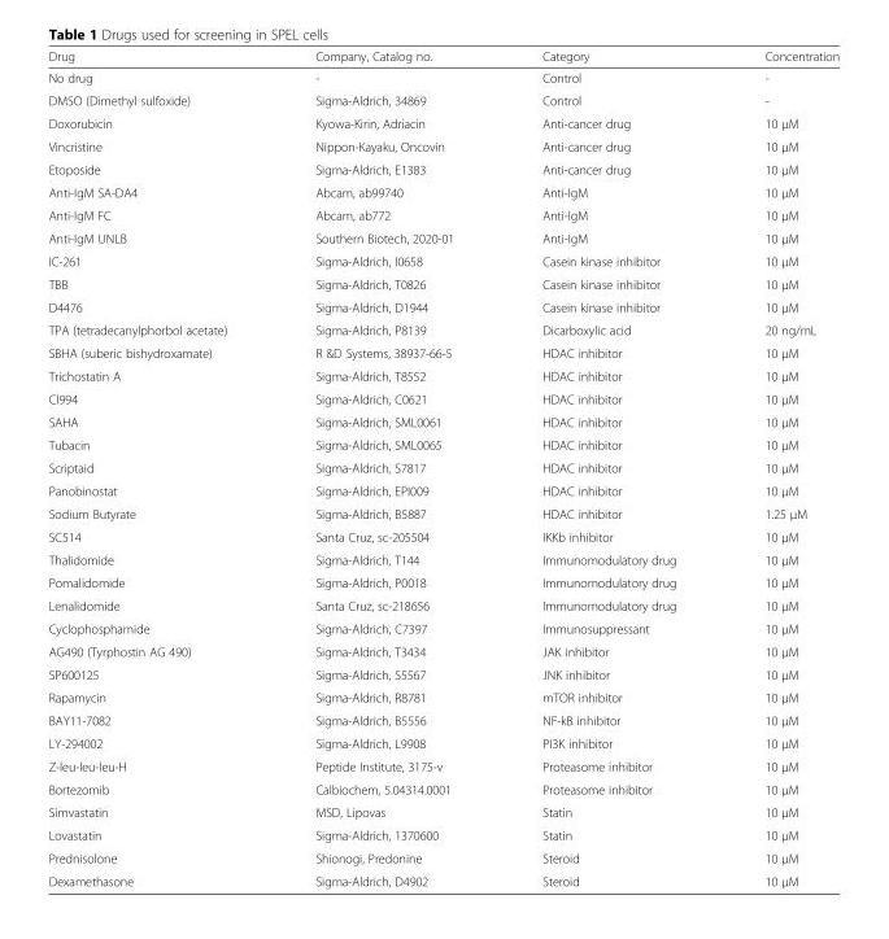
<table><thead><tr><td>Drug</td><td>Company, Catalog no.</td><td>Category</td><td>Concentration</td></tr></thead><tbody><tr><td>No drug</td><td>-</td><td>Control</td><td>-</td></tr><tr><td>DMSO (Dimethyl sulfoxide)</td><td>Sigma-Aldrich, 34869</td><td>Control</td><td>-</td></tr><tr><td>Doxorubicin</td><td>Kyowa-Kirin, Adriacin</td><td>Anti-cancer drug</td><td>10 μM</td></tr><tr><td>Vincristine</td><td>Nippon-Kayaku, Oncovin</td><td>Anti-cancer drug</td><td>10 μM</td></tr><tr><td>Etoposide</td><td>Sigma-Aldrich, E1383</td><td>Anti-cancer drug</td><td>10 μM</td></tr><tr><td>Anti-IgM SA-DA4</td><td>Abcam, ab99740</td><td>Anti-IgM</td><td>10 μM</td></tr><tr><td>Anti-IgM FC</td><td>Abcam, ab772</td><td>Anti-IgM</td><td>10 μM</td></tr><tr><td>Anti-IgM UNLB</td><td>Southern Biotech, 2020-01</td><td>Anti-IgM</td><td>10 μM</td></tr><tr><td>IC-261</td><td>Sigma-Aldrich, I0658</td><td>Casein kinase inhibitor</td><td>10 μM</td></tr><tr><td>TBB</td><td>Sigma-Aldrich, T0826</td><td>Casein kinase inhibitor</td><td>10 μM</td></tr><tr><td>D4476</td><td>Sigma-Aldrich, D1944</td><td>Casein kinase inhibitor</td><td>10 μM</td></tr><tr><td>TPA (tetradecanylphorbol acetate)</td><td>Sigma-Aldrich, P8139</td><td>Dicarboxylic acid</td><td>20 ng/mL</td></tr><tr><td>SBHA (suberic bishydroxamate)</td><td>R &amp;D Systems, 38937-66-5</td><td>HDAC inhibitor</td><td>10 μM</td></tr><tr><td>Trichostatin A</td><td>Sigma-Aldrich, T8552</td><td>HDAC inhibitor</td><td>10 μM</td></tr><tr><td>Cl994</td><td>Sigma-Aldrich, C0621</td><td>HDAC inhibitor</td><td>10 μM</td></tr><tr><td>SAHA</td><td>Sigma-Aldrich, SML0061</td><td>HDAC inhibitor</td><td>10 μM</td></tr><tr><td>Tubacin</td><td>Sigma-Aldrich, SML0065</td><td>HDAC inhibitor</td><td>10 μM</td></tr><tr><td>Scriptaid</td><td>Sigma-Aldrich, S7817</td><td>HDAC inhibitor</td><td>10 μM</td></tr><tr><td>Panobinostat</td><td>Sigma-Aldrich, EPI009</td><td>HDAC inhibitor</td><td>10 μM</td></tr><tr><td>Sodium Butyrate</td><td>Sigma-Aldrich, B5887</td><td>HDAC inhibitor</td><td>1.25 μM</td></tr><tr><td>SC514</td><td>Santa Cruz, sc-205504</td><td>IKKb inhibitor</td><td>10 μM</td></tr><tr><td>Thalidomide</td><td>Sigma-Aldrich, T144</td><td>Immunomodulatory drug</td><td>10 μM</td></tr><tr><td>Pomalidomide</td><td>Sigma-Aldrich, P0018</td><td>Immunomodulatory drug</td><td>10 μM</td></tr><tr><td>Lenalidomide</td><td>Santa Cruz, sc-218656</td><td>Immunomodulatory drug</td><td>10 μM</td></tr><tr><td>Cyclophosphamide</td><td>Sigma-Aldrich, C7397</td><td>Immunosuppressant</td><td>10 μM</td></tr><tr><td>AG490 (Tyrphostin AG 490)</td><td>Sigma-Aldrich, T3434</td><td>JAK inhibitor</td><td>10 μM</td></tr><tr><td>SP600125</td><td>Sigma-Aldrich, S5567</td><td>JNK inhibitor</td><td>10 μM</td></tr><tr><td>Rapamycin</td><td>Sigma-Aldrich, R8781</td><td>mTOR inhibitor</td><td>10 μM</td></tr><tr><td>BAY11-7082</td><td>Sigma-Aldrich, B5556</td><td>NF-kB inhibitor</td><td>10 μM</td></tr><tr><td>LY-294002</td><td>Sigma-Aldrich, L9908</td><td>PI3K inhibitor</td><td>10 μM</td></tr><tr><td>Z-leu-leu-leu-H</td><td>Peptide Institute, 3175-v</td><td>Proteasome inhibitor</td><td>10 μM</td></tr><tr><td>Bortezomib</td><td>Calbiochem, 5.04314.0001</td><td>Proteasome inhibitor</td><td>10 μM</td></tr><tr><td>Simvastatin</td><td>MSD, Lipovas</td><td>Statin</td><td>10 μM</td></tr><tr><td>Lovastatin</td><td>Sigma-Aldrich, 1370600</td><td>Statin</td><td>10 μM</td></tr><tr><td>Prednisolone</td><td>Shionogi, Predonine</td><td>Steroid</td><td>10 μM</td></tr><tr><td>Dexamethasone</td><td>Sigma-Aldrich, D4902</td><td>Steroid</td><td>10 μM</td></tr></tbody></table>